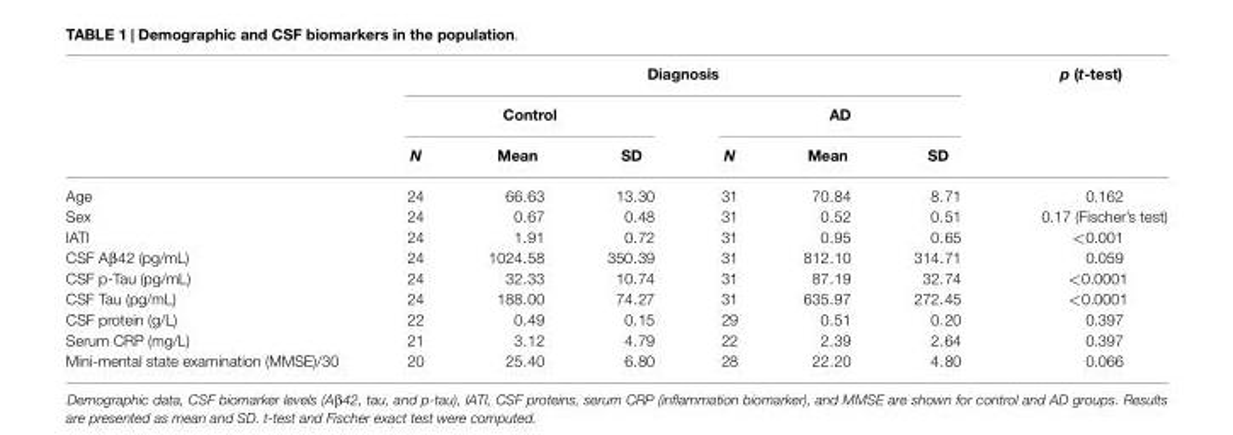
<table><thead><tr><td rowspan="3"></td><td colspan="6">Diagnosis</td><td rowspan="3">p (t-test)</td></tr><tr><td colspan="3">Control</td><td colspan="3">AD</td></tr><tr><td>N</td><td>Mean</td><td>SD</td><td>N</td><td>Mean</td><td>SD</td></tr></thead><tbody><tr><td>Age</td><td>24</td><td>66.63</td><td>13.30</td><td>31</td><td>70.84</td><td>8.71</td><td>0.162</td></tr><tr><td>Sex</td><td>24</td><td>0.67</td><td>0.48</td><td>31</td><td>0.52</td><td>0.51</td><td>0.17 (Fischer’s test)</td></tr><tr><td>IATI</td><td>24</td><td>1.91</td><td>0.72</td><td>31</td><td>0.95</td><td>0.65</td><td>&lt;0.001</td></tr><tr><td>CSF Aβ42 (pg/mL)</td><td>24</td><td>1024.58</td><td>350.39</td><td>31</td><td>812.10</td><td>314.71</td><td>0.059</td></tr><tr><td>CSF p-Tau (pg/mL)</td><td>24</td><td>32.33</td><td>10.74</td><td>31</td><td>87.19</td><td>32.74</td><td>&lt;0.0001</td></tr><tr><td>CSF Tau (pg/mL)</td><td>24</td><td>188.00</td><td>74.27</td><td>31</td><td>635.97</td><td>272.45</td><td>&lt;0.0001</td></tr><tr><td>CSF protein (g/L)</td><td>22</td><td>0.49</td><td>0.15</td><td>29</td><td>0.51</td><td>0.20</td><td>0.397</td></tr><tr><td>Serum CRP (mg/L)</td><td>21</td><td>3.12</td><td>4.79</td><td>22</td><td>2.39</td><td>2.64</td><td>0.397</td></tr><tr><td>Mini-mental state examination (MMSE)/30</td><td>20</td><td>25.40</td><td>6.80</td><td>28</td><td>22.20</td><td>4.80</td><td>0.066</td></tr></tbody></table>